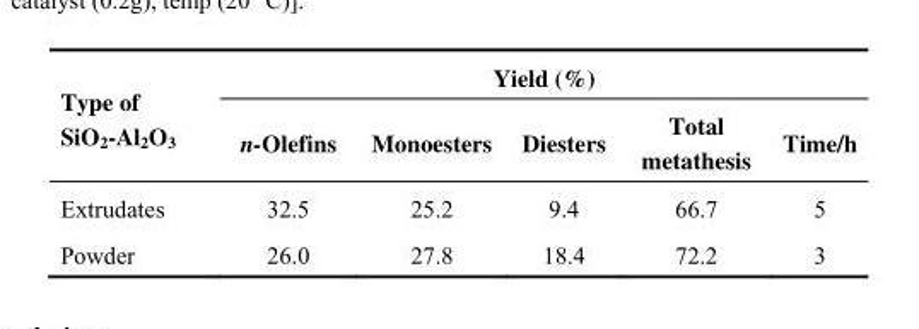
<table><thead><tr><td rowspan="2">Type of SiO<sub>2</sub>-Al<sub>2</sub>O<sub>3</sub></td><td colspan="5">Yield (%)</td></tr><tr><td>n-Olefins</td><td>Monoesters</td><td>Diesters</td><td>Total metathesis</td><td>Time/h</td></tr></thead><tbody><tr><td>Extrudates</td><td>32.5</td><td>25.2</td><td>9.4</td><td>66.7</td><td>5</td></tr><tr><td>Powder</td><td>26.0</td><td>27.8</td><td>18.4</td><td>72.2</td><td>3</td></tr></tbody></table>